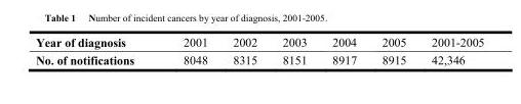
<table><thead><tr><td>Year of diagnosis</td><td>2001</td><td>2002</td><td>2003</td><td>2004</td><td>2005</td><td>2001-2005</td></tr></thead><tbody><tr><td>No. of notifications</td><td>8048</td><td>8315</td><td>8151</td><td>8917</td><td>8915</td><td>42,346</td></tr></tbody></table>